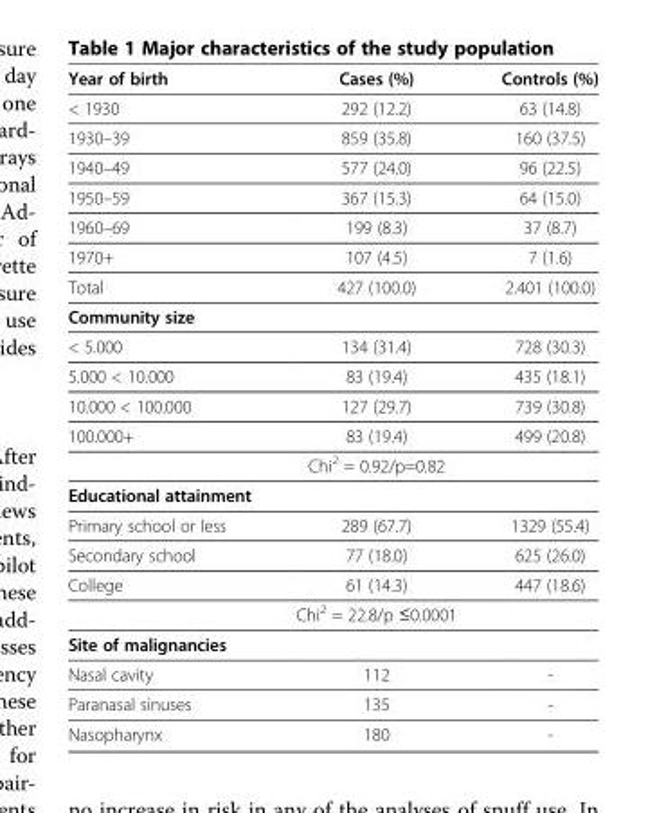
<table><thead><tr><td>Year of birth</td><td>Cases (%)</td><td>Controls (%)</td></tr></thead><tbody><tr><td>&lt; 1930</td><td>292 (12.2)</td><td>63 (14.8)</td></tr><tr><td>1930–39</td><td>859 (35.8)</td><td>160 (37.5)</td></tr><tr><td>1940–49</td><td>577 (24.0)</td><td>96 (22.5)</td></tr><tr><td>1950–59</td><td>367 (15.3)</td><td>64 (15.0)</td></tr><tr><td>1960–69</td><td>199 (8.3)</td><td>37 (8.7)</td></tr><tr><td>1970+</td><td>107 (4.5)</td><td>7 (1.6)</td></tr><tr><td>Total</td><td>427 (100.0)</td><td>2.401 (100.0)</td></tr><tr><td colspan="3">Community size</td></tr><tr><td>&lt; 5.000</td><td>134 (31.4)</td><td>728 (30.3)</td></tr><tr><td>5.000 &lt; 10.000</td><td>83 (19.4)</td><td>435 (18.1)</td></tr><tr><td>10.000 &lt; 100.000</td><td>127 (29.7)</td><td>739 (30.8)</td></tr><tr><td rowspan="2">100.000+</td><td>83 (19.4)</td><td>499 (20.8)</td></tr><tr><td>Chi<sup>2</sup> = 0.92/p=0.82</td><td></td></tr><tr><td colspan="3">Educational attainment</td></tr><tr><td>Primary school or less</td><td>289 (67.7)</td><td>1329 (55.4)</td></tr><tr><td>Secondary school</td><td>77 (18.0)</td><td>625 (26.0)</td></tr><tr><td rowspan="2">College</td><td>61 (14.3)</td><td>447 (18.6)</td></tr><tr><td>Chi<sup>2</sup> = 22.8/p ≤0.0001</td><td></td></tr><tr><td colspan="3">Site of malignancies</td></tr><tr><td>Nasal cavity</td><td>112</td><td>-</td></tr><tr><td>Paranasal sinuses</td><td>135</td><td>-</td></tr><tr><td>Nasopharynx</td><td>180</td><td>-</td></tr></tbody></table>